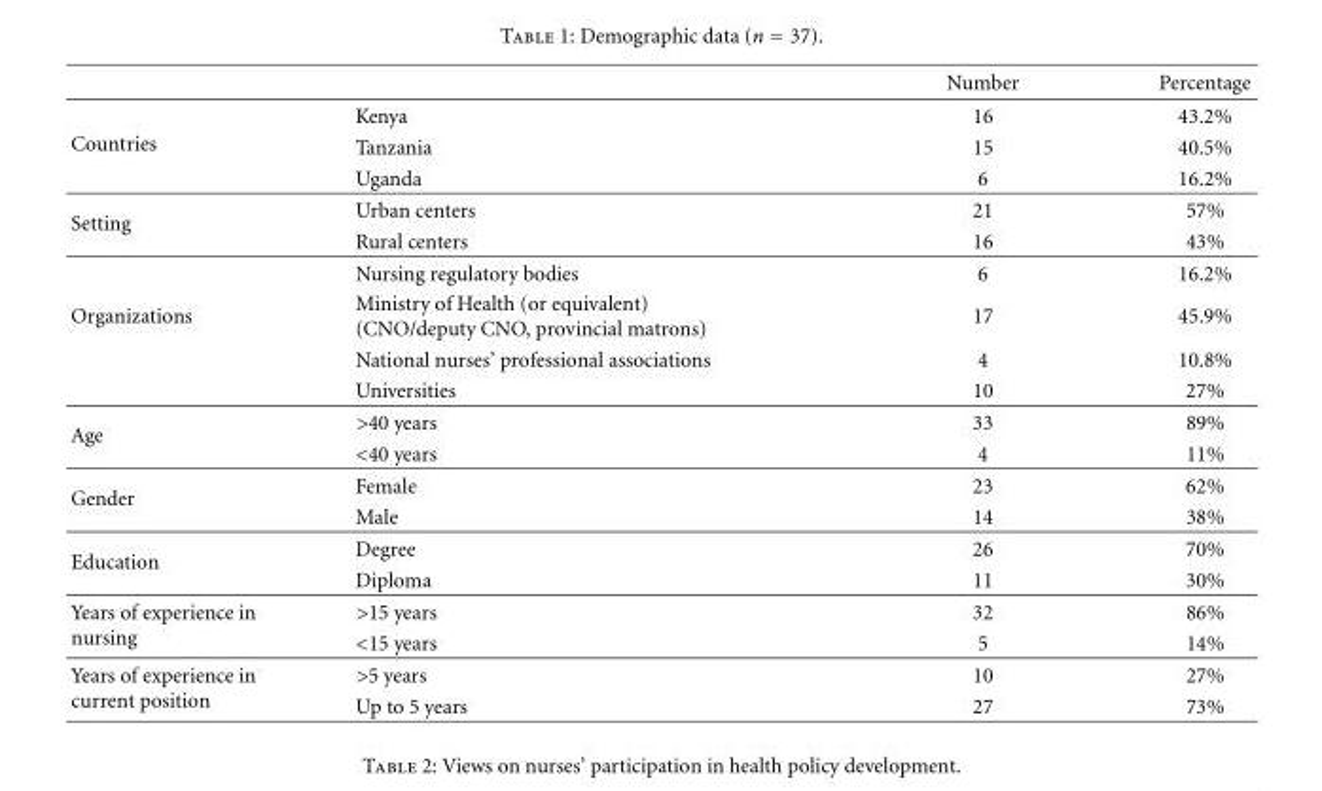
<table><thead><tr><td></td><td></td><td>Number</td><td>Percentage</td></tr></thead><tbody><tr><td rowspan="3">Countries</td><td>Kenya</td><td>16</td><td>43.2%</td></tr><tr><td>Tanzania</td><td>15</td><td>40.5%</td></tr><tr><td>Uganda</td><td>6</td><td>16.2%</td></tr><tr><td rowspan="2">Setting</td><td>Urban centers</td><td>21</td><td>57%</td></tr><tr><td>Rural centers</td><td>16</td><td>43%</td></tr><tr><td rowspan="4">Organizations</td><td>Nursing regulatory bodies</td><td>6</td><td>16.2%</td></tr><tr><td>Ministry of Health (or equivalent) (CNO/deputy CNO, provincial matrons)</td><td>17</td><td>45.9%</td></tr><tr><td>National nurses’ professional associations</td><td>4</td><td>10.8%</td></tr><tr><td>Universities</td><td>10</td><td>27%</td></tr><tr><td rowspan="2">Age</td><td>&gt;40 years</td><td>33</td><td>89%</td></tr><tr><td>&lt;40 years</td><td>4</td><td>11%</td></tr><tr><td rowspan="2">Gender</td><td>Female</td><td>23</td><td>62%</td></tr><tr><td>Male</td><td>14</td><td>38%</td></tr><tr><td rowspan="2">Education</td><td>Degree</td><td>26</td><td>70%</td></tr><tr><td>Diploma</td><td>11</td><td>30%</td></tr><tr><td rowspan="2">Years of experience in nursing</td><td>&gt;15 years</td><td>32</td><td>86%</td></tr><tr><td>&lt;15 years</td><td>5</td><td>14%</td></tr><tr><td rowspan="2">Years of experience in current position</td><td>&gt;5 years</td><td>10</td><td>27%</td></tr><tr><td>Up to 5 years</td><td>27</td><td>73%</td></tr></tbody></table>